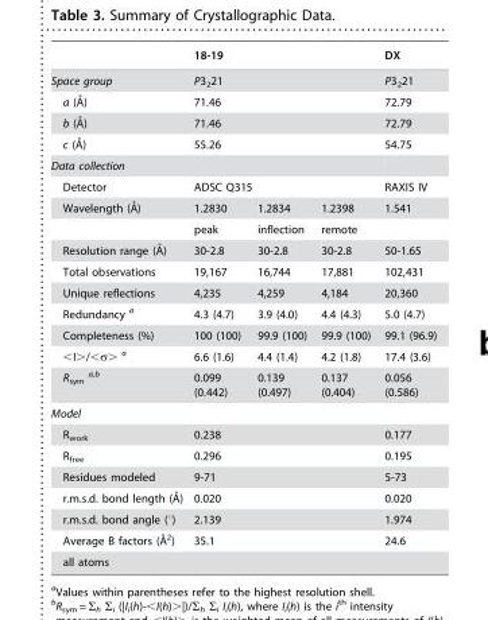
<table><thead><tr><td></td><td colspan="3">18-19</td><td>DX</td></tr></thead><tbody><tr><td>Space group</td><td colspan="3">P3<sub>2</sub>21</td><td>P3<sub>2</sub>21</td></tr><tr><td>a (A˚)</td><td colspan="3">71.46</td><td>72.79</td></tr><tr><td>b (A˚)</td><td colspan="3">71.46</td><td>72.79</td></tr><tr><td>c (A˚)</td><td colspan="3">55.26</td><td>54.75</td></tr><tr><td colspan="5">Data collection</td></tr><tr><td>Detector</td><td colspan="3">ADSC Q315</td><td>RAXIS IV</td></tr><tr><td rowspan="2">Wavelength (A˚)</td><td>1.2830</td><td>1.2834</td><td>1.2398</td><td>1.541</td></tr><tr><td>peak</td><td>inflection</td><td>remote</td><td></td></tr><tr><td>Resolution range (A˚)</td><td>30-2.8</td><td>30-2.8</td><td>30-2.8</td><td>50-1.65</td></tr><tr><td>Total observations</td><td>19,167</td><td>16,744</td><td>17,881</td><td>102,431</td></tr><tr><td>Unique reflections</td><td>4,235</td><td>4,259</td><td>4,184</td><td>20,360</td></tr><tr><td>Redundancy a</td><td>4.3 (4.7)</td><td>3.9 (4.0)</td><td>4.4 (4.3)</td><td>5.0 (4.7)</td></tr><tr><td>Completeness (%)</td><td>100 (100)</td><td>99.9 (100)</td><td>99.9 (100)</td><td>99.1 (96.9)</td></tr><tr><td>&lt;I&gt;/&lt;σ&gt; a</td><td>6.6 (1.6)</td><td>4.4 (1.4)</td><td>4.2 (1.8)</td><td>17.4 (3.6)</td></tr><tr><td>R<sub>sym</sub> a,b</td><td>0.099 (0.442)</td><td>0.139 (0.497)</td><td>0.137 (0.404)</td><td>0.056 (0.586)</td></tr><tr><td colspan="5">Model</td></tr><tr><td>R<sub>work</sub></td><td colspan="3">0.238</td><td>0.177</td></tr><tr><td>R<sub>free</sub></td><td colspan="3">0.296</td><td>0.195</td></tr><tr><td>Residues modeled</td><td colspan="3">9-71</td><td>5-73</td></tr><tr><td>r.m.s.d. bond length (A˚)</td><td colspan="3">0.020</td><td>0.020</td></tr><tr><td>r.m.s.d. bond angle (°)</td><td colspan="3">2.139</td><td>1.974</td></tr><tr><td>Average B factors (A˚ 2)</td><td colspan="3">35.1</td><td>24.6</td></tr><tr><td>all atoms</td><td colspan="3"></td><td></td></tr></tbody></table>